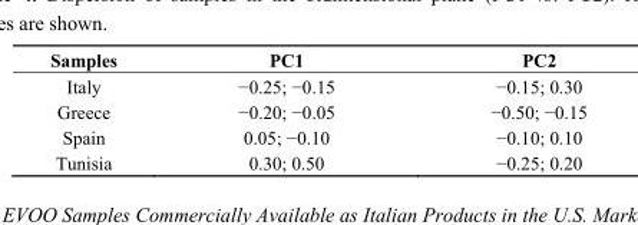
<table><thead><tr><td>Samples</td><td>PC1</td><td>PC2</td></tr></thead><tbody><tr><td>Italy</td><td>−0.25; −0.15</td><td>−0.15; 0.30</td></tr><tr><td>Greece</td><td>−0.20; −0.05</td><td>−0.50; −0.15</td></tr><tr><td>Spain</td><td>0.05; −0.10</td><td>−0.10; 0.10</td></tr><tr><td>Tunisia</td><td>0.30; 0.50</td><td>−0.25; 0.20</td></tr></tbody></table>